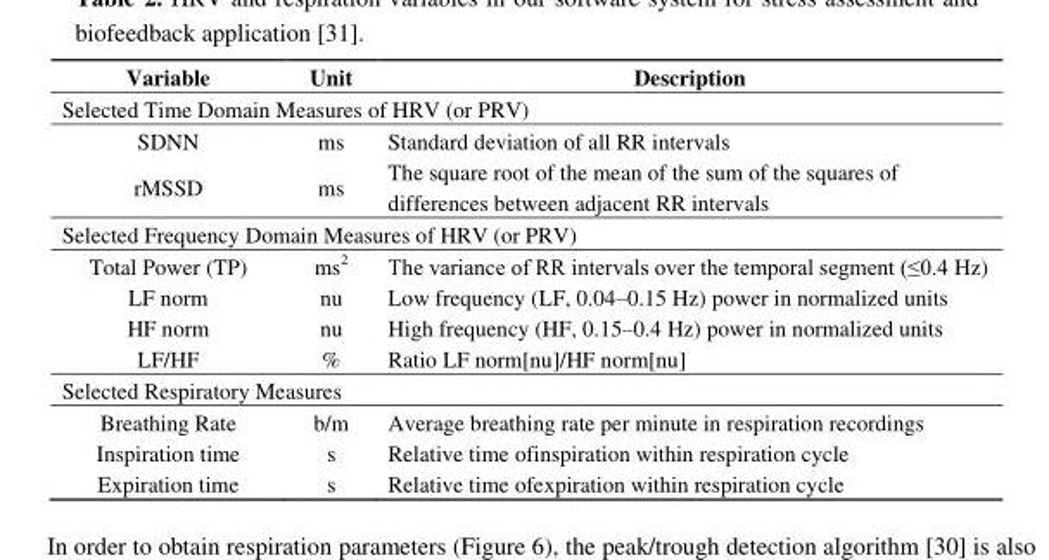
<table><thead><tr><td>Variable</td><td>Unit</td><td>Description</td></tr><tr><td colspan="3">Selected Time Domain Measures of HRV (or PRV)</td></tr></thead><tbody><tr><td>SDNN</td><td>ms</td><td>Standard deviation of all RR intervals</td></tr><tr><td>rMSSD</td><td>ms</td><td>The square root of the mean of the sum of the squares of differences between adjacent RR intervals</td></tr><tr><td colspan="3">Selected Frequency Domain Measures of HRV (or PRV)</td></tr><tr><td>Total Power (TP)</td><td>ms<sup>2</sup></td><td>The variance of RR intervals over the temporal segment (≤0.4 Hz)</td></tr><tr><td>LF norm</td><td>nu</td><td>Low frequency (LF, 0.04–0.15 Hz) power in normalized units</td></tr><tr><td>HF norm</td><td>nu</td><td>High frequency (HF, 0.15–0.4 Hz) power in normalized units</td></tr><tr><td>LF/HF</td><td>%</td><td>Ratio LF norm[nu]/HF norm[nu]</td></tr><tr><td colspan="3">Selected Respiratory Measures</td></tr><tr><td>Breathing Rate</td><td>b/m</td><td>Average breathing rate per minute in respiration recordings</td></tr><tr><td>Inspiration time</td><td>s</td><td>Relative time ofinspiration within respiration cycle</td></tr><tr><td>Expiration time</td><td>s</td><td>Relative time ofexpiration within respiration cycle</td></tr></tbody></table>